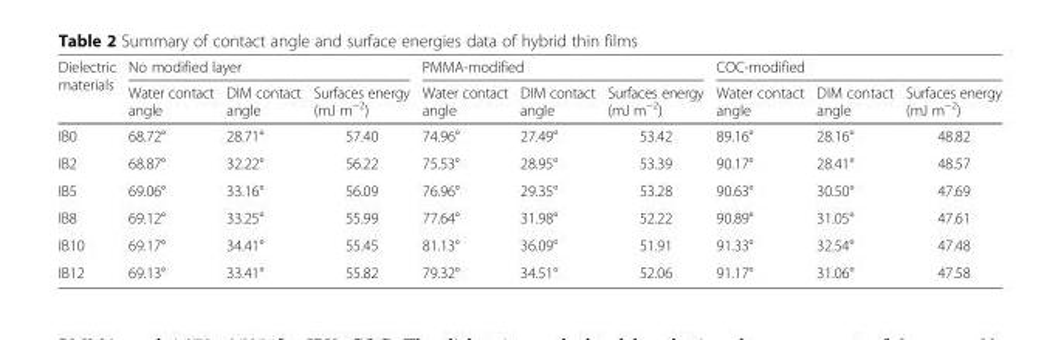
<table><thead><tr><td rowspan="2">Dielectric materials</td><td colspan="3">No modified layer</td><td colspan="3">PMMA-modified</td><td colspan="3">COC-modified</td></tr><tr><td>Water contact angle</td><td>DIM contact angle</td><td>Surfaces energy (mJ m<sup>−2</sup>)</td><td>Water contact angle</td><td>DIM contact angle</td><td>Surfaces energy (mJ m<sup>−2</sup>)</td><td>Water contact angle</td><td>DIM contact angle</td><td>Surfaces energy (mJ m<sup>−2</sup>)</td></tr></thead><tbody><tr><td>IB0</td><td>68.72°</td><td>28.71°</td><td>57.40</td><td>74.96°</td><td>27.49°</td><td>53.42</td><td>89.16°</td><td>28.16°</td><td>48.82</td></tr><tr><td>IB2</td><td>68.87°</td><td>32.22°</td><td>56.22</td><td>75.53°</td><td>28.95°</td><td>53.39</td><td>90.17°</td><td>28.41°</td><td>48.57</td></tr><tr><td>IB5</td><td>69.06°</td><td>33.16°</td><td>56.09</td><td>76.96°</td><td>29.35°</td><td>53.28</td><td>90.63°</td><td>30.50°</td><td>47.69</td></tr><tr><td>IB8</td><td>69.12°</td><td>33.25°</td><td>55.99</td><td>77.64°</td><td>31.98°</td><td>52.22</td><td>90.89°</td><td>31.05°</td><td>47.61</td></tr><tr><td>IB10</td><td>69.17°</td><td>34.41°</td><td>55.45</td><td>81.13°</td><td>36.09°</td><td>51.91</td><td>91.33°</td><td>32.54°</td><td>47.48</td></tr><tr><td>IB12</td><td>69.13°</td><td>33.41°</td><td>55.82</td><td>79.32°</td><td>34.51°</td><td>52.06</td><td>91.17°</td><td>31.06°</td><td>47.58</td></tr></tbody></table>